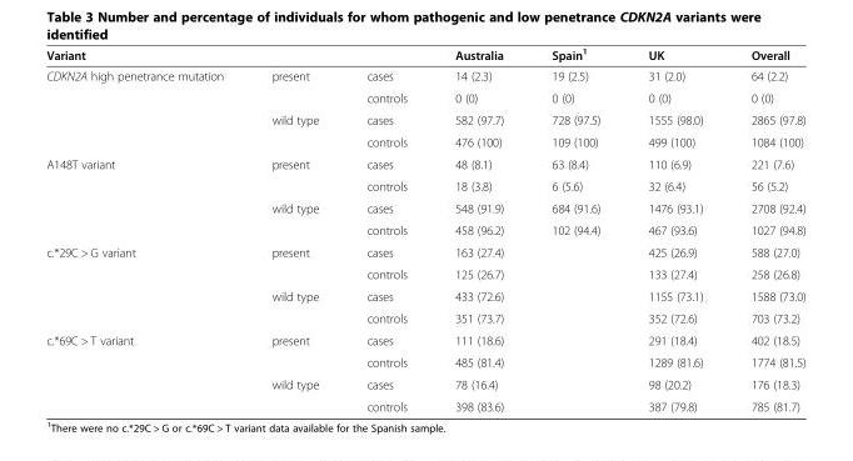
<table><thead><tr><td>Variant</td><td></td><td></td><td>Australia</td><td>Spain<sup>1</sup></td><td>UK</td><td>Overall</td></tr></thead><tbody><tr><td rowspan="4">CDKN2A high penetrance mutation</td><td rowspan="2">present</td><td>cases</td><td>14 (2.3)</td><td>19 (2.5)</td><td>31 (2.0)</td><td>64 (2.2)</td></tr><tr><td>controls</td><td>0 (0)</td><td>0 (0)</td><td>0 (0)</td><td>0 (0)</td></tr><tr><td rowspan="2">wild type</td><td>cases</td><td>582 (97.7)</td><td>728 (97.5)</td><td>1555 (98.0)</td><td>2865 (97.8)</td></tr><tr><td>controls</td><td>476 (100)</td><td>109 (100)</td><td>499 (100)</td><td>1084 (100)</td></tr><tr><td rowspan="4">A148T variant</td><td rowspan="2">present</td><td>cases</td><td>48 (8.1)</td><td>63 (8.4)</td><td>110 (6.9)</td><td>221 (7.6)</td></tr><tr><td>controls</td><td>18 (3.8)</td><td>6 (5.6)</td><td>32 (6.4)</td><td>56 (5.2)</td></tr><tr><td rowspan="2">wild type</td><td>cases</td><td>548 (91.9)</td><td>684 (91.6)</td><td>1476 (93.1)</td><td>2708 (92.4)</td></tr><tr><td>controls</td><td>458 (96.2)</td><td>102 (94.4)</td><td>467 (93.6)</td><td>1027 (94.8)</td></tr><tr><td rowspan="4">c.*29C &gt; G variant</td><td rowspan="2">present</td><td>cases</td><td>163 (27.4)</td><td></td><td>425 (26.9)</td><td>588 (27.0)</td></tr><tr><td>controls</td><td>125 (26.7)</td><td></td><td>133 (27.4)</td><td>258 (26.8)</td></tr><tr><td rowspan="2">wild type</td><td>cases</td><td>433 (72.6)</td><td></td><td>1155 (73.1)</td><td>1588 (73.0)</td></tr><tr><td>controls</td><td>351 (73.7)</td><td></td><td>352 (72.6)</td><td>703 (73.2)</td></tr><tr><td rowspan="4">c.*69C &gt; T variant</td><td rowspan="2">present</td><td>cases</td><td>111 (18.6)</td><td></td><td>291 (18.4)</td><td>402 (18.5)</td></tr><tr><td>controls</td><td>485 (81.4)</td><td></td><td>1289 (81.6)</td><td>1774 (81.5)</td></tr><tr><td rowspan="2">wild type</td><td>cases</td><td>78 (16.4)</td><td></td><td>98 (20.2)</td><td>176 (18.3)</td></tr><tr><td>controls</td><td>398 (83.6)</td><td></td><td>387 (79.8)</td><td>785 (81.7)</td></tr></tbody></table>